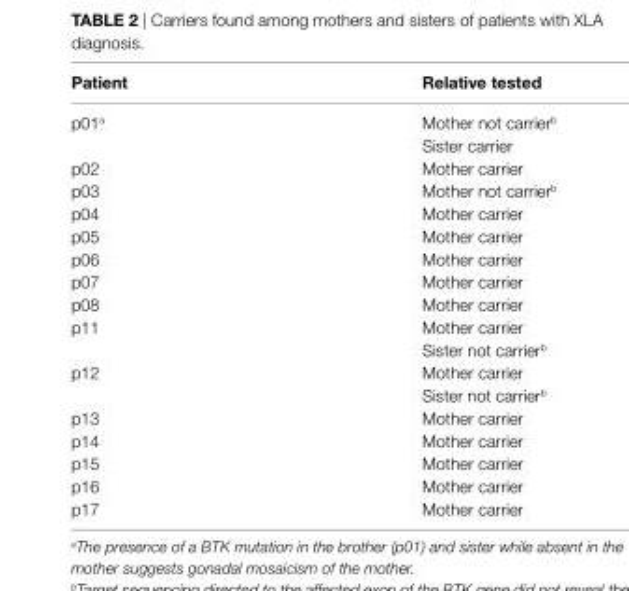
<table><thead><tr><td>Patient</td><td>relative tested</td></tr></thead><tbody><tr><td rowspan="2">p01<sup>a</sup></td><td>Mother not carrier<sup>b</sup></td></tr><tr><td>Sister carrier</td></tr><tr><td>p02</td><td>Mother carrier</td></tr><tr><td>p03</td><td>Mother not carrier<sup>b</sup></td></tr><tr><td>p04</td><td>Mother carrier</td></tr><tr><td>p05</td><td>Mother carrier</td></tr><tr><td>p06</td><td>Mother carrier</td></tr><tr><td>p07</td><td>Mother carrier</td></tr><tr><td>p08</td><td>Mother carrier</td></tr><tr><td>p11</td><td>Mother carrier Sister not carrier<sup>b</sup></td></tr><tr><td>p12</td><td>Mother carrier Sister not carrier<sup>b</sup></td></tr><tr><td>p13</td><td>Mother carrier</td></tr><tr><td>p14</td><td>Mother carrier</td></tr><tr><td>p15</td><td>Mother carrier</td></tr><tr><td>p16</td><td>Mother carrier</td></tr><tr><td>p17</td><td>Mother carrier</td></tr></tbody></table>